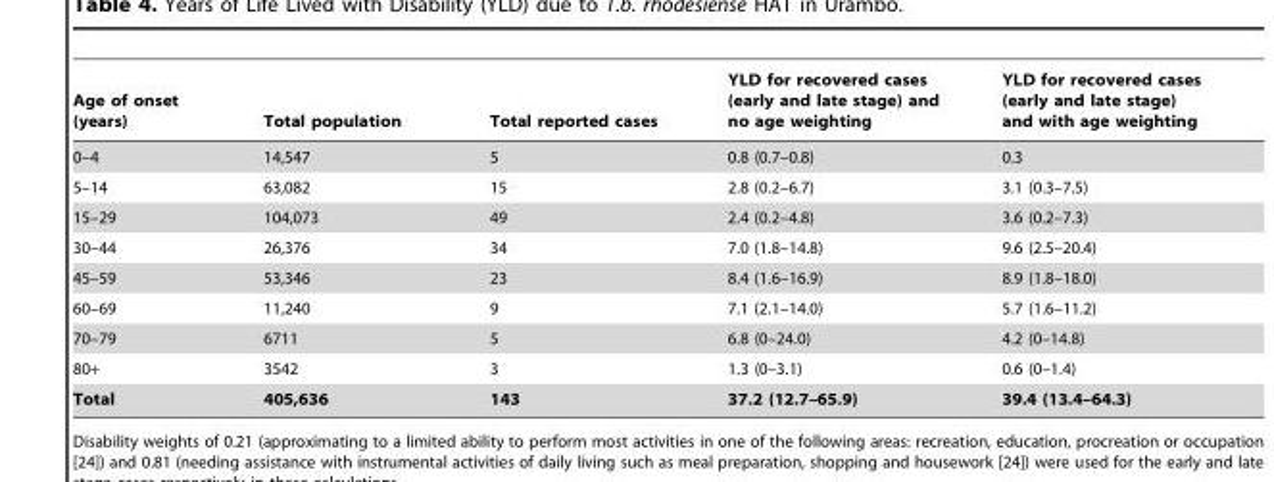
<table><thead><tr><td>Age of onset (years)</td><td>Total population</td><td>Total reported cases</td><td>YLD for recovered cases (early and late stage) and no age weighting</td><td>YLD for recovered cases (early and late stage) and with age weighting</td></tr></thead><tbody><tr><td>0–4</td><td>14,547</td><td>5</td><td>0.8 (0.7–0.8)</td><td>0.3</td></tr><tr><td>5–14</td><td>63,082</td><td>15</td><td>2.8 (0.2–6.7)</td><td>3.1 (0.3–7.5)</td></tr><tr><td>15–29</td><td>104,073</td><td>49</td><td>2.4 (0.2–4.8)</td><td>3.6 (0.2–7.3)</td></tr><tr><td>30–44</td><td>26,376</td><td>34</td><td>7.0 (1.8–14.8)</td><td>9.6 (2.5–20.4)</td></tr><tr><td>45–59</td><td>53,346</td><td>23</td><td>8.4 (1.6–16.9)</td><td>8.9 (1.8–18.0)</td></tr><tr><td>60–69</td><td>11,240</td><td>9</td><td>7.1 (2.1–14.0)</td><td>5.7 (1.6–11.2)</td></tr><tr><td>70–79</td><td>6711</td><td>5</td><td>6.8 (0–24.0)</td><td>4.2 (0–14.8)</td></tr><tr><td>80+</td><td>3542</td><td>3</td><td>1.3 (0–3.1)</td><td>0.6 (0–1.4)</td></tr><tr><td>Total</td><td>405,636</td><td>143</td><td>37.2 (12.7–65.9)</td><td>39.4 (13.4–64.3)</td></tr></tbody></table>